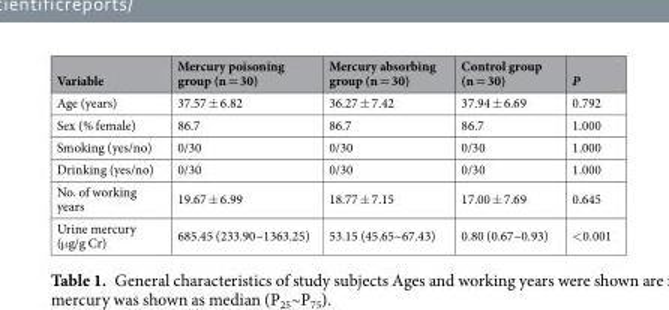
<table><thead><tr><td>Variable</td><td>Mercury poisoning group (n = 30)</td><td>Mercury absorbing group (n = 30)</td><td>Control group (n = 30)</td><td>P</td></tr></thead><tbody><tr><td>Age (years)</td><td>37.57 ± 6.82</td><td>36.27 ± 7.42</td><td>37.94 ± 6.69</td><td>0.792</td></tr><tr><td>Sex (% female)</td><td>86.7</td><td>86.7</td><td>86.7</td><td>1.000</td></tr><tr><td>Smoking (yes/no)</td><td>0/30</td><td>0/30</td><td>0/30</td><td>1.000</td></tr><tr><td>Drinking (yes/no)</td><td>0/30</td><td>0/30</td><td>0/30</td><td>1.000</td></tr><tr><td>No. of working years</td><td>19.67 ± 6.99</td><td>18.77 ± 7.15</td><td>17.00 ± 7.69</td><td>0.645</td></tr><tr><td>Urine mercury (μg/g Cr)</td><td>685.45 (233.90~1363.25)</td><td>53.15 (45.65~67.43)</td><td>0.80 (0.67~0.93)</td><td>&lt;0.001</td></tr></tbody></table>